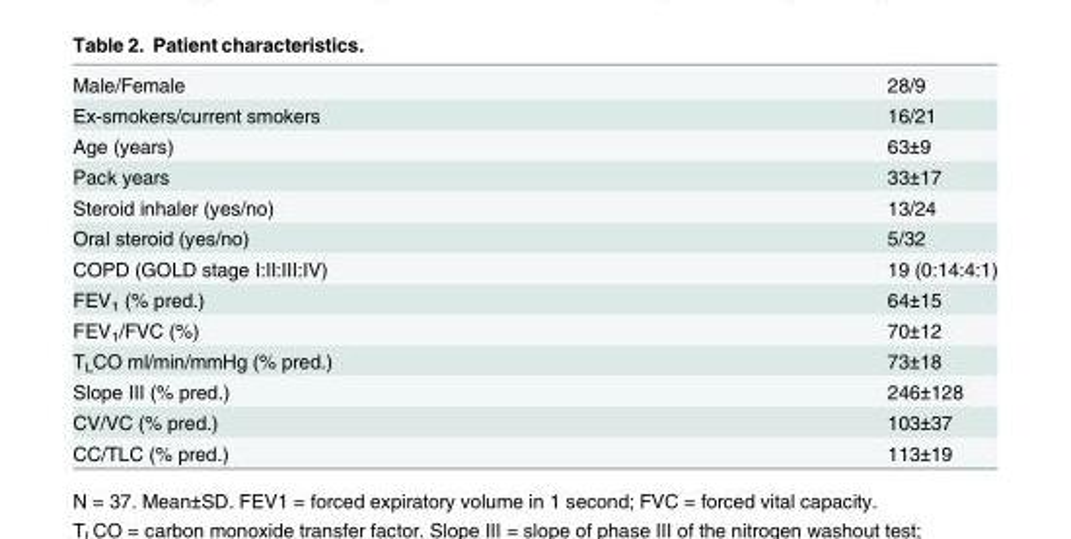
<table><tbody><tr><td>Male/Female</td><td>28/9</td></tr><tr><td>Ex-smokers/current smokers</td><td>16/21</td></tr><tr><td>Age (years)</td><td>63±9</td></tr><tr><td>Pack years</td><td>33±17</td></tr><tr><td>Steroid inhaler (yes/no)</td><td>13/24</td></tr><tr><td>Oral steroid (yes/no)</td><td>5/32</td></tr><tr><td>COPD (GOLD stage I:II:III:IV)</td><td>19 (0:14:4:1)</td></tr><tr><td>FEV<sub>1</sub> (% pred.)</td><td>64±15</td></tr><tr><td>FEV<sub>1</sub>/FVC (%)</td><td>70±12</td></tr><tr><td>T<sub>L</sub>CO ml/min/mmHg (% pred.)</td><td>73±18</td></tr><tr><td>Slope III (% pred.)</td><td>246±128</td></tr><tr><td>CV/VC (% pred.)</td><td>103±37</td></tr><tr><td>CC/TLC (% pred.)</td><td>113±19</td></tr></tbody></table>